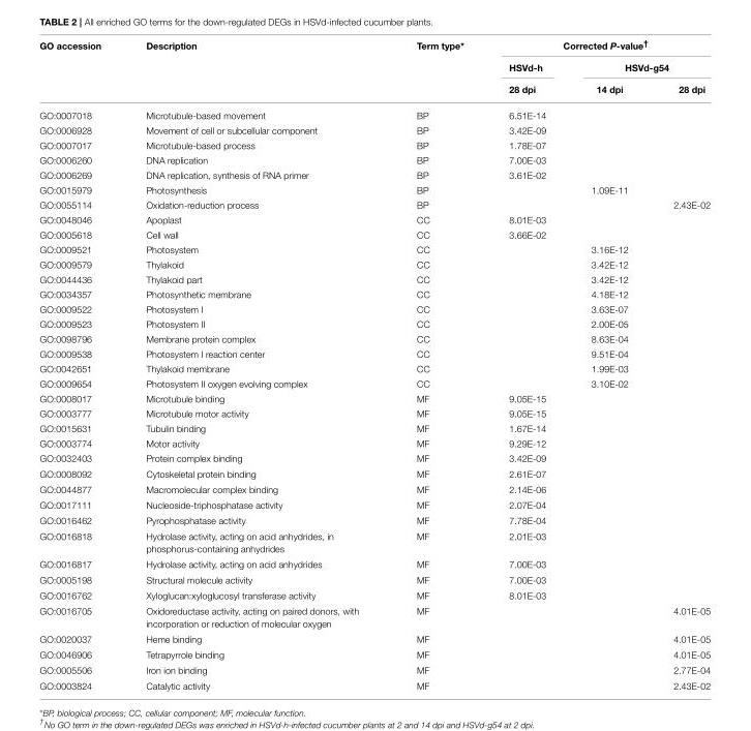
<table><thead><tr><td rowspan="3">GO accession</td><td rowspan="3">Description</td><td rowspan="3">Term type*</td><td colspan="3">Corrected P-value<sup>†</sup></td></tr><tr><td rowspan="2">HSVd-h 28 dpi</td><td colspan="2">HSVd-g54</td></tr><tr><td>14 dpi</td><td>28 dpi</td></tr></thead><tbody><tr><td>GO:0007018</td><td>Microtubule-based movement</td><td>BP</td><td>6.51E-14</td><td></td><td></td></tr><tr><td>GO:0006928</td><td>Movement of cell or subcellular component</td><td>BP</td><td>3.42E-09</td><td></td><td></td></tr><tr><td>GO:0007017</td><td>Microtubule-based process</td><td>BP</td><td>1.78E-07</td><td></td><td></td></tr><tr><td>GO:0006260</td><td>DNA replication</td><td>BP</td><td>7.00E-03</td><td></td><td></td></tr><tr><td>GO:0006269</td><td>DNA replication, synthesis of RNA primer</td><td>BP</td><td>3.61E-02</td><td></td><td></td></tr><tr><td>GO:0015979</td><td>Photosynthesis</td><td>BP</td><td></td><td>1.09E-11</td><td></td></tr><tr><td>GO:0055114</td><td>Oxidation-reduction process</td><td>BP</td><td></td><td></td><td>2.43E-02</td></tr><tr><td>GO:0048046</td><td>Apoplast</td><td>CC</td><td>8.01E-03</td><td></td><td></td></tr><tr><td>GO:0005618</td><td>Cell wall</td><td>CC</td><td>3.66E-02</td><td></td><td></td></tr><tr><td>GO:0009521</td><td>Photosystem</td><td>CC</td><td></td><td>3.16E-12</td><td></td></tr><tr><td>GO:0009579</td><td>Thylakoid</td><td>CC</td><td></td><td>3.42E-12</td><td></td></tr><tr><td>GO:0044436</td><td>Thylakoid part</td><td>CC</td><td></td><td>3.42E-12</td><td></td></tr><tr><td>GO:0034357</td><td>Photosynthetic membrane</td><td>CC</td><td></td><td>4.18E-12</td><td></td></tr><tr><td>GO:0009522</td><td>Photosystem I</td><td>CC</td><td></td><td>3.63E-07</td><td></td></tr><tr><td>GO:0009523</td><td>Photosystem II</td><td>CC</td><td></td><td>2.00E-05</td><td></td></tr><tr><td>GO:0098796</td><td>Membrane protein complex</td><td>CC</td><td></td><td>8.63E-04</td><td></td></tr><tr><td>GO:0009538</td><td>Photosystem I reaction center</td><td>CC</td><td></td><td>9.51E-04</td><td></td></tr><tr><td>GO:0042651</td><td>Thylakoid membrane</td><td>CC</td><td></td><td>1.99E-03</td><td></td></tr><tr><td>GO:0009654</td><td>Photosystem II oxygen evolving complex</td><td>CC</td><td></td><td>3.10E-02</td><td></td></tr><tr><td>GO:0008017</td><td>Microtubule binding</td><td>MF</td><td>9.05E-15</td><td></td><td></td></tr><tr><td>GO:0003777</td><td>Microtubule motor activity</td><td>MF</td><td>9.05E-15</td><td></td><td></td></tr><tr><td>GO:0015631</td><td>Tubulin binding</td><td>MF</td><td>1.67E-14</td><td></td><td></td></tr><tr><td>GO:0003774</td><td>Motor activity</td><td>MF</td><td>9.29E-12</td><td></td><td></td></tr><tr><td>GO:0032403</td><td>Protein complex binding</td><td>MF</td><td>3.42E-09</td><td></td><td></td></tr><tr><td>GO:0008092</td><td>Cytoskeletal protein binding</td><td>MF</td><td>2.61E-07</td><td></td><td></td></tr><tr><td>GO:0044877</td><td>Macromolecular complex binding</td><td>MF</td><td>2.14E-06</td><td></td><td></td></tr><tr><td>GO:0017111</td><td>Nucleoside-triphosphatase activity</td><td>MF</td><td>2.07E-04</td><td></td><td></td></tr><tr><td>GO:0016462</td><td>Pyrophosphatase activity</td><td>MF</td><td>7.78E-04</td><td></td><td></td></tr><tr><td>GO:0016818</td><td>Hydrolase activity, acting on acid anhydrides, in phosphorus-containing anhydrides</td><td>MF</td><td>2.01E-03</td><td></td><td></td></tr><tr><td>GO:0016817</td><td>Hydrolase activity, acting on acid anhydrides</td><td>MF</td><td>7.00E-03</td><td></td><td></td></tr><tr><td>GO:0005198</td><td>Structural molecule activity</td><td>MF</td><td>7.00E-03</td><td></td><td></td></tr><tr><td>GO:0016762</td><td>Xyloglucan:xyloglucosyl transferase activity</td><td>MF</td><td>8.01E-03</td><td></td><td></td></tr><tr><td>GO:0016705</td><td>Oxidoreductase activity, acting on paired donors, with incorporation or reduction of molecular oxygen</td><td>MF</td><td></td><td></td><td>4.01E-05</td></tr><tr><td>GO:0020037</td><td>Heme binding</td><td>MF</td><td></td><td></td><td>4.01E-05</td></tr><tr><td>GO:0046906</td><td>Tetrapyrrole binding</td><td>MF</td><td></td><td></td><td>4.01E-05</td></tr><tr><td>GO:0005506</td><td>Iron ion binding</td><td>MF</td><td></td><td></td><td>2.77E-04</td></tr><tr><td>GO:0003824</td><td>Catalytic activity</td><td>MF</td><td></td><td></td><td>2.43E-02</td></tr></tbody></table>